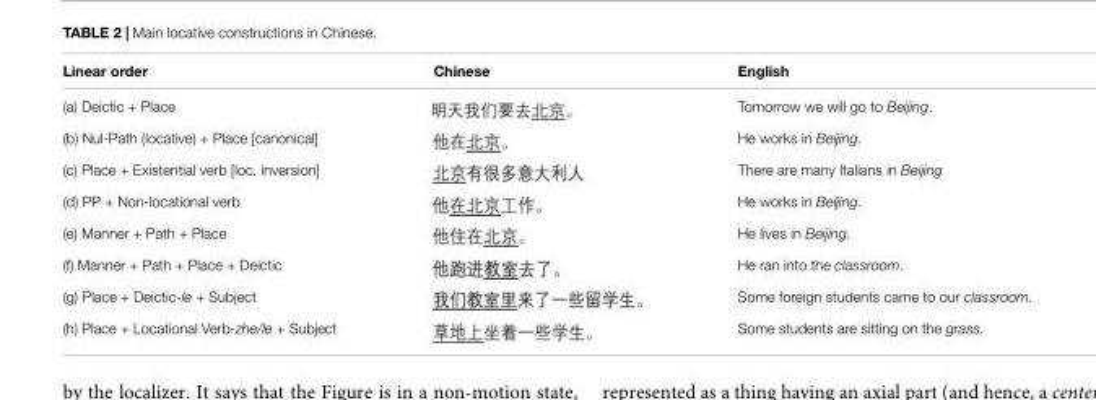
<table><thead><tr><td>Linear order</td><td>Chinese</td><td>English</td></tr></thead><tbody><tr><td>(a) Deictic + Place</td><td></td><td>Tomorrow we will go to Beijing.</td></tr><tr><td>(b) Nul-Path (locative) + Place [canonical]</td><td></td><td>He works in Beijing.</td></tr><tr><td>(c) Place + Existential verb [loc. inversion]</td><td></td><td>There are many Italians in Beijing</td></tr><tr><td>(d) PP + Non-locational verb</td><td></td><td>He works in Beijing.</td></tr><tr><td>(e) Manner + Path + Place</td><td></td><td>He lives in Beijing.</td></tr><tr><td>(f) Manner + Path + Place + Deictic</td><td></td><td>He ran into the classroom.</td></tr><tr><td>(g) Place + Deictic-le + Subject</td><td></td><td>Some foreign students came to our classroom.</td></tr><tr><td>(h) Place + Locational Verb-zhe/le + Subject</td><td></td><td>Some students are sitting on the grass.</td></tr></tbody></table>